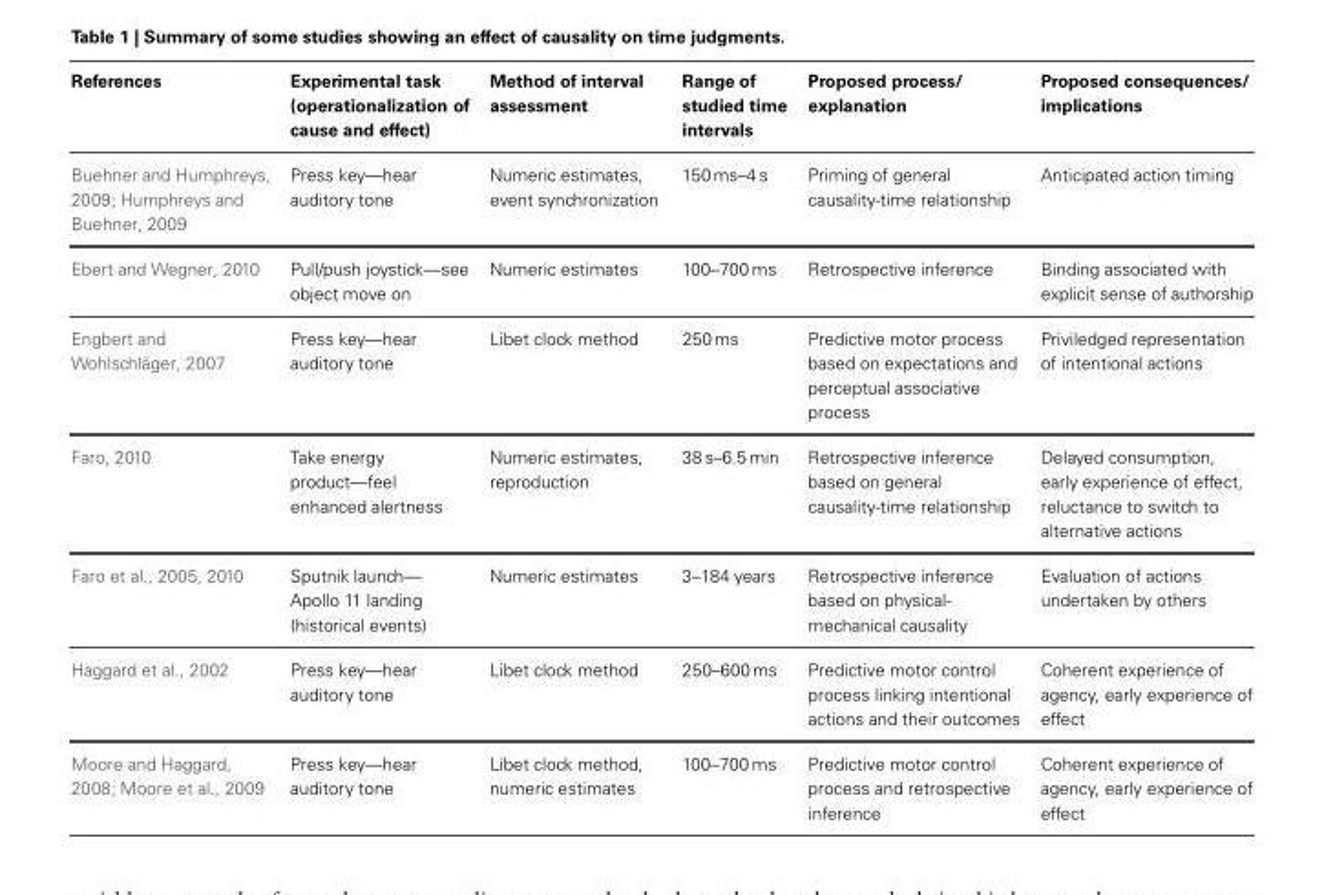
<table><thead><tr><td>References</td><td>Experimental task (operationalization of cause and effect)</td><td>Method of interval assessment</td><td>Range of studied time intervals</td><td>Proposed process/ explanation</td><td>Proposed consequences/ implications</td></tr></thead><tbody><tr><td>Buehner and Humphreys, 2009; Humphreys and Buehner, 2009</td><td>Press key—hear auditory tone</td><td>Numeric estimates, event synchronization</td><td>150ms–4 s</td><td>Priming of general causality-time relationship</td><td>Anticipated action timing</td></tr><tr><td>Ebert and Wegner, 2010</td><td>Pull/push joystick—see object move on</td><td>Numeric estimates</td><td>100–700 ms</td><td>Retrospective inference</td><td>Binding associated with explicit sense of authorship</td></tr><tr><td>Engbert and Wohlschläger, 2007</td><td>Press key—hear auditory tone</td><td>Libet clock method</td><td>250ms</td><td>Predictive motor process based on expectations and perceptual associative process</td><td>Priviledged representation of intentional actions</td></tr><tr><td>Faro, 2010</td><td>Take energy product—feel enhanced alertness</td><td>Numeric estimates, reproduction</td><td>38 s–6.5 min</td><td>Retrospective inference based on general causality-time relationship</td><td>Delayed consumption, early experience of effect, reluctance to switch to alternative actions</td></tr><tr><td>Faro et al., 2005, 2010</td><td>Sputnik launch— Apollo 11 landing (historical events)</td><td>Numeric estimates</td><td>3–184 years</td><td>Retrospective inference based on physical- mechanical causality</td><td>Evaluation of actions undertaken by others</td></tr><tr><td>Haggard et al., 2002</td><td>Press key—hear auditory tone</td><td>Libet clock method</td><td>250–600ms</td><td>Predictive motor control process linking intentional actions and their outcomes</td><td>Coherent experience of agency, early experience of effect</td></tr><tr><td>Moore and Haggard, 2008; Moore et al., 2009</td><td>Press key—hear auditory tone</td><td>Libet clock method, numeric estimates</td><td>100–700 ms</td><td>Predictive motor control process and retrospective inference</td><td>Coherent experience of agency, early experience of effect</td></tr></tbody></table>